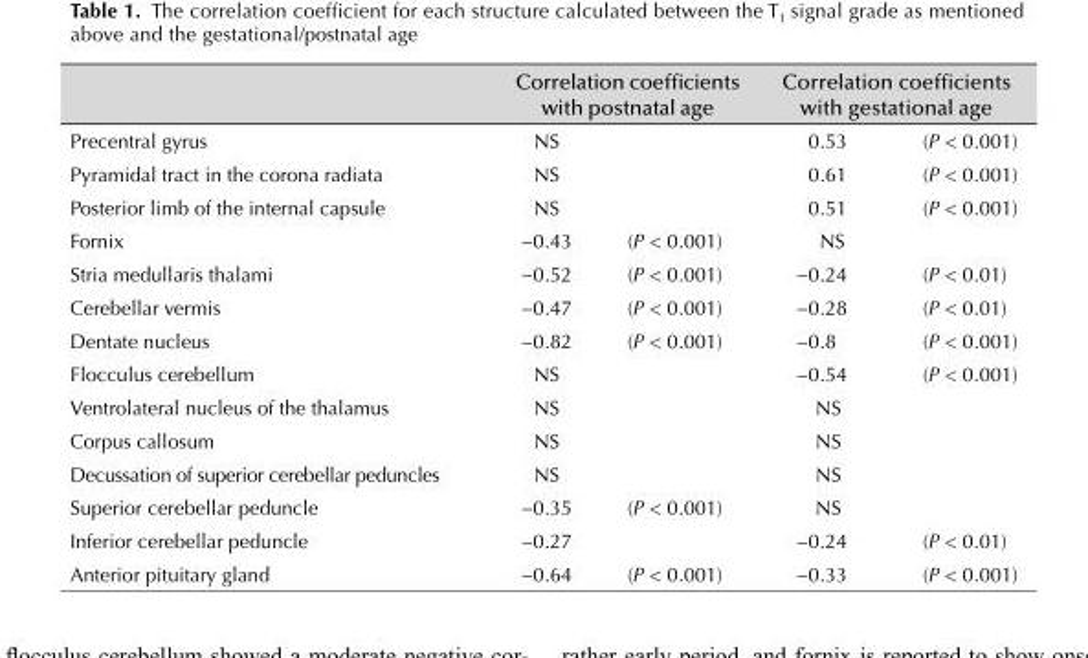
<table><thead><tr><td rowspan="2">Precentral gyrus</td><td colspan="2">Correlation coefficients with postnatal age</td><td colspan="2">Correlation coefficients with gestational age</td></tr><tr><td>NS</td><td></td><td>0.53</td><td>(P &lt; 0.001)</td></tr></thead><tbody><tr><td>Pyramidal tract in the corona radiata</td><td>NS</td><td></td><td>0.61</td><td>(P &lt; 0.001)</td></tr><tr><td>Posterior limb of the internal capsule</td><td>NS</td><td></td><td>0.51</td><td>(P &lt; 0.001)</td></tr><tr><td>Fornix</td><td>−0.43</td><td>(P &lt; 0.001)</td><td>NS</td><td></td></tr><tr><td>Stria medullaris thalami</td><td>−0.52</td><td>(P &lt; 0.001)</td><td>−0.24</td><td>(P &lt; 0.01)</td></tr><tr><td>Cerebellar vermis</td><td>−0.47</td><td>(P &lt; 0.001)</td><td>−0.28</td><td>(P &lt; 0.01)</td></tr><tr><td>Dentate nucleus</td><td>−0.82</td><td>(P &lt; 0.001)</td><td>−0.8</td><td>(P &lt; 0.001)</td></tr><tr><td>Flocculus cerebellum</td><td>NS</td><td></td><td>−0.54</td><td>(P &lt; 0.001)</td></tr><tr><td>Ventrolateral nucleus of the thalamus</td><td>NS</td><td></td><td>NS</td><td></td></tr><tr><td>Corpus callosum</td><td>NS</td><td></td><td>NS</td><td></td></tr><tr><td>Decussation of superior cerebellar peduncles</td><td>NS</td><td></td><td>NS</td><td></td></tr><tr><td>Superior cerebellar peduncle</td><td>−0.35</td><td>(P &lt; 0.001)</td><td>NS</td><td></td></tr><tr><td>Inferior cerebellar peduncle</td><td>−0.27</td><td></td><td>−0.24</td><td>(P &lt; 0.01)</td></tr><tr><td>Anterior pituitary gland</td><td>−0.64</td><td>(P &lt; 0.001)</td><td>−0.33</td><td>(P &lt; 0.001)</td></tr></tbody></table>